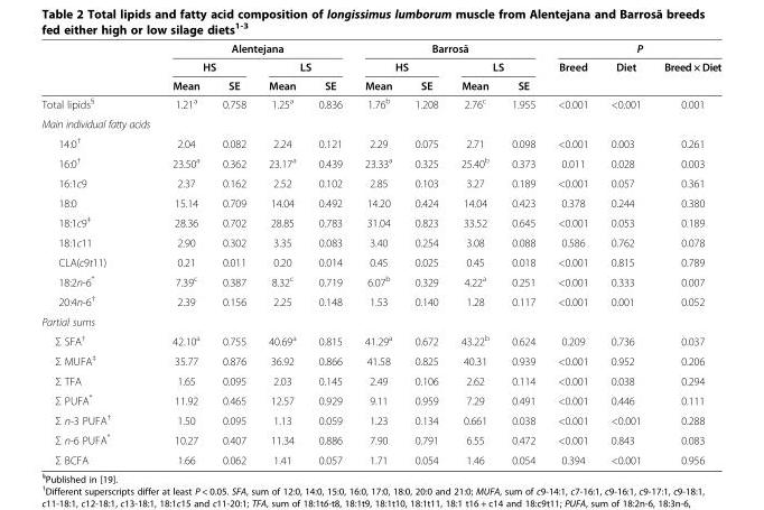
<table><thead><tr><td rowspan="3"></td><td colspan="4">Alentejana</td><td colspan="4">Barrosã</td><td colspan="3">P</td></tr><tr><td colspan="2">HS</td><td colspan="2">LS</td><td colspan="2">HS</td><td colspan="2">LS</td><td rowspan="2">Breed</td><td rowspan="2">Diet</td><td rowspan="2">Breed × Diet</td></tr><tr><td>Mean</td><td>SE</td><td>Mean</td><td>SE</td><td>Mean</td><td>SE</td><td>Mean</td><td>SE</td></tr></thead><tbody><tr><td>Total lipids<sup>§</sup></td><td>1.21<sup>a</sup></td><td>0.758</td><td>1.25<sup>a</sup></td><td>0.836</td><td>1.76<sup>b</sup></td><td>1.208</td><td>2.76<sup>c</sup></td><td>1.955</td><td>&lt;0.001</td><td>&lt;0.001</td><td>0.001</td></tr><tr><td colspan="12">Main individual fatty acids</td></tr><tr><td>14:0<sup>†</sup></td><td>2.04</td><td>0.082</td><td>2.24</td><td>0.121</td><td>2.29</td><td>0.075</td><td>2.71</td><td>0.098</td><td>&lt;0.001</td><td>0.003</td><td>0.261</td></tr><tr><td>16:0<sup>†</sup></td><td>23.50<sup>a</sup></td><td>0.362</td><td>23.17<sup>a</sup></td><td>0.439</td><td>23.33<sup>a</sup></td><td>0.325</td><td>25.40<sup>b</sup></td><td>0.373</td><td>0.011</td><td>0.028</td><td>0.003</td></tr><tr><td>16:1c9</td><td>2.37</td><td>0.162</td><td>2.52</td><td>0.102</td><td>2.85</td><td>0.103</td><td>3.27</td><td>0.189</td><td>&lt;0.001</td><td>0.057</td><td>0.361</td></tr><tr><td>18:0</td><td>15.14</td><td>0.709</td><td>14.04</td><td>0.492</td><td>14.20</td><td>0.424</td><td>14.04</td><td>0.423</td><td>0.378</td><td>0.244</td><td>0.380</td></tr><tr><td>18:1c9<sup>‡</sup></td><td>28.36</td><td>0.702</td><td>28.85</td><td>0.783</td><td>31.04</td><td>0.823</td><td>33.52</td><td>0.645</td><td>&lt;0.001</td><td>0.053</td><td>0.189</td></tr><tr><td>18:1c11</td><td>2.90</td><td>0.302</td><td>3.35</td><td>0.083</td><td>3.40</td><td>0.254</td><td>3.08</td><td>0.088</td><td>0.586</td><td>0.762</td><td>0.078</td></tr><tr><td>CLA(c9t11)</td><td>0.21</td><td>0.011</td><td>0.20</td><td>0.014</td><td>0.45</td><td>0.025</td><td>0.45</td><td>0.018</td><td>&lt;0.001</td><td>0.815</td><td>0.789</td></tr><tr><td>18:2n-6*</td><td>7.39<sup>c</sup></td><td>0.387</td><td>8.32<sup>c</sup></td><td>0.719</td><td>6.07<sup>b</sup></td><td>0.329</td><td>4.22<sup>a</sup></td><td>0.251</td><td>&lt;0.001</td><td>0.333</td><td>0.007</td></tr><tr><td>20:4n-6<sup>†</sup></td><td>2.39</td><td>0.156</td><td>2.25</td><td>0.148</td><td>1.53</td><td>0.140</td><td>1.28</td><td>0.117</td><td>&lt;0.001</td><td>0.001</td><td>0.052</td></tr><tr><td colspan="12">Partial sums</td></tr><tr><td>Σ SFA<sup>†</sup></td><td>42.10<sup>a</sup></td><td>0.755</td><td>40.69<sup>a</sup></td><td>0.815</td><td>41.29<sup>a</sup></td><td>0.672</td><td>43.22<sup>b</sup></td><td>0.624</td><td>0.209</td><td>0.736</td><td>0.037</td></tr><tr><td>Σ MUFA<sup>‡</sup></td><td>35.77</td><td>0.876</td><td>36.92</td><td>0.866</td><td>41.58</td><td>0.825</td><td>40.31</td><td>0.939</td><td>&lt;0.001</td><td>0.952</td><td>0.206</td></tr><tr><td>Σ TFA</td><td>1.65</td><td>0.095</td><td>2.03</td><td>0.145</td><td>2.49</td><td>0.106</td><td>2.62</td><td>0.114</td><td>&lt;0.001</td><td>0.038</td><td>0.294</td></tr><tr><td>Σ PUFA*</td><td>11.92</td><td>0.465</td><td>12.57</td><td>0.929</td><td>9.11</td><td>0.959</td><td>7.29</td><td>0.491</td><td>&lt;0.001</td><td>0.446</td><td>0.111</td></tr><tr><td>Σ n-3 PUFA<sup>†</sup></td><td>1.50</td><td>0.095</td><td>1.13</td><td>0.059</td><td>1.23</td><td>0.134</td><td>0.661</td><td>0.038</td><td>&lt;0.001</td><td>&lt;0.001</td><td>0.288</td></tr><tr><td>Σ n-6 PUFA*</td><td>10.27</td><td>0.407</td><td>11.34</td><td>0.886</td><td>7.90</td><td>0.791</td><td>6.55</td><td>0.472</td><td>&lt;0.001</td><td>0.843</td><td>0.083</td></tr><tr><td>Σ BCFA</td><td>1.66</td><td>0.062</td><td>1.41</td><td>0.057</td><td>1.71</td><td>0.054</td><td>1.46</td><td>0.054</td><td>0.394</td><td>&lt;0.001</td><td>0.956</td></tr></tbody></table>